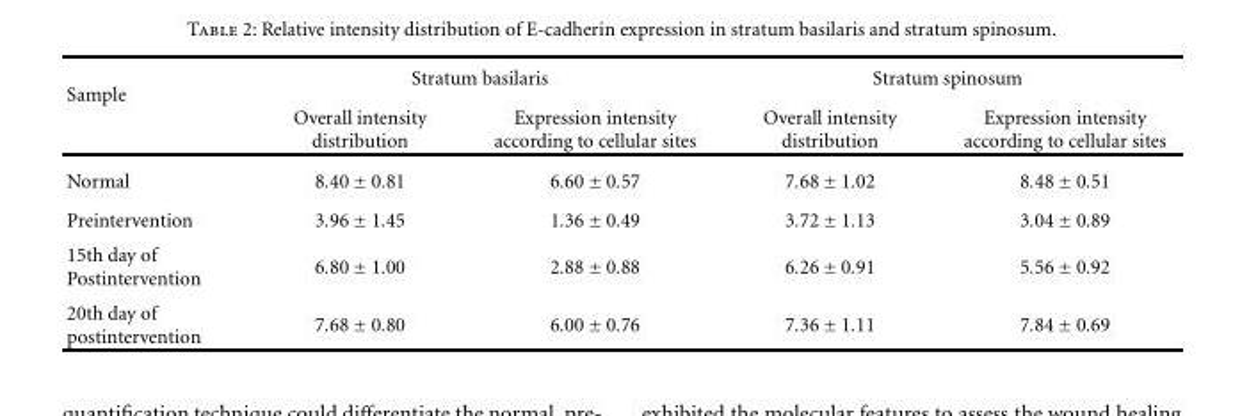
<table><thead><tr><td rowspan="2">Sample</td><td colspan="2">Stratum basilaris</td><td colspan="2">Stratum spinosum</td></tr><tr><td>Overall intensity distribution</td><td>Expression intensity according to cellular sites</td><td>Overall intensity distribution</td><td>Expression intensity according to cellular sites</td></tr></thead><tbody><tr><td>Normal</td><td>8.40 ± 0.81</td><td>6.60 ± 0.57</td><td>7.68 ± 1.02</td><td>8.48 ± 0.51</td></tr><tr><td>Preintervention</td><td>3.96 ± 1.45</td><td>1.36 ± 0.49</td><td>3.72 ± 1.13</td><td>3.04 ± 0.89</td></tr><tr><td>15th day of Postintervention</td><td>6.80 ± 1.00</td><td>2.88 ± 0.88</td><td>6.26 ± 0.91</td><td>5.56 ± 0.92</td></tr><tr><td>20th day of postintervention</td><td>7.68 ± 0.80</td><td>6.00 ± 0.76</td><td>7.36 ± 1.11</td><td>7.84 ± 0.69</td></tr></tbody></table>